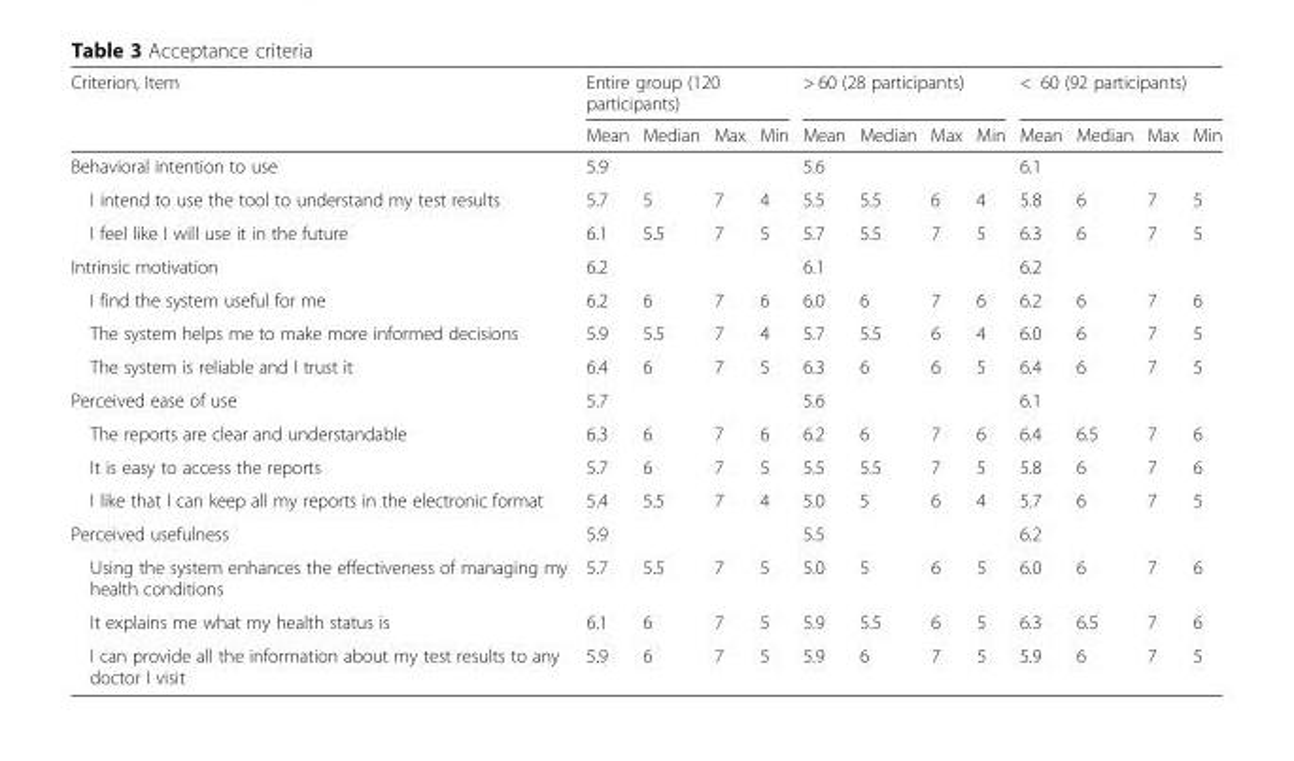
<table><thead><tr><td rowspan="2">Criterion, Item</td><td colspan="4">Entire group (120 participants)</td><td colspan="4">&gt; 60 (28 participants)</td><td colspan="4">&lt; 60 (92 participants)</td></tr><tr><td>Mean</td><td>Median</td><td>Max</td><td>Min</td><td>Mean</td><td>Median</td><td>Max</td><td>Min</td><td>Mean</td><td>Median</td><td>Max</td><td>Min</td></tr></thead><tbody><tr><td>Behavioral intention to use</td><td>5.9</td><td></td><td></td><td></td><td>5.6</td><td></td><td></td><td></td><td>6.1</td><td></td><td></td><td></td></tr><tr><td>I intend to use the tool to understand my test results</td><td>5.7</td><td>5</td><td>7</td><td>4</td><td>5.5</td><td>5.5</td><td>6</td><td>4</td><td>5.8</td><td>6</td><td>7</td><td>5</td></tr><tr><td>I feel like I will use it in the future</td><td>6.1</td><td>5.5</td><td>7</td><td>5</td><td>5.7</td><td>5.5</td><td>7</td><td>5</td><td>6.3</td><td>6</td><td>7</td><td>5</td></tr><tr><td>Intrinsic motivation</td><td>6.2</td><td></td><td></td><td></td><td>6.1</td><td></td><td></td><td></td><td>6.2</td><td></td><td></td><td></td></tr><tr><td>I find the system useful for me</td><td>6.2</td><td>6</td><td>7</td><td>6</td><td>6.0</td><td>6</td><td>7</td><td>6</td><td>6.2</td><td>6</td><td>7</td><td>6</td></tr><tr><td>The system helps me to make more informed decisions</td><td>5.9</td><td>5.5</td><td>7</td><td>4</td><td>5.7</td><td>5.5</td><td>6</td><td>4</td><td>6.0</td><td>6</td><td>7</td><td>5</td></tr><tr><td>The system is reliable and I trust it</td><td>6.4</td><td>6</td><td>7</td><td>5</td><td>6.3</td><td>6</td><td>6</td><td>5</td><td>6.4</td><td>6</td><td>7</td><td>5</td></tr><tr><td>Perceived ease of use</td><td>5.7</td><td></td><td></td><td></td><td>5.6</td><td></td><td></td><td></td><td>6.1</td><td></td><td></td><td></td></tr><tr><td>The reports are clear and understandable</td><td>6.3</td><td>6</td><td>7</td><td>6</td><td>6.2</td><td>6</td><td>7</td><td>6</td><td>6.4</td><td>6.5</td><td>7</td><td>6</td></tr><tr><td>It is easy to access the reports</td><td>5.7</td><td>6</td><td>7</td><td>5</td><td>5.5</td><td>5.5</td><td>7</td><td>5</td><td>5.8</td><td>6</td><td>7</td><td>6</td></tr><tr><td>I like that I can keep all my reports in the electronic format</td><td>5.4</td><td>5.5</td><td>7</td><td>4</td><td>5.0</td><td>5</td><td>6</td><td>4</td><td>5.7</td><td>6</td><td>7</td><td>5</td></tr><tr><td>Perceived usefulness</td><td>5.9</td><td></td><td></td><td></td><td>5.5</td><td></td><td></td><td></td><td>6.2</td><td></td><td></td><td></td></tr><tr><td>Using the system enhances the effectiveness of managing my health conditions</td><td>5.7</td><td>5.5</td><td>7</td><td>5</td><td>5.0</td><td>5</td><td>6</td><td>5</td><td>6.0</td><td>6</td><td>7</td><td>6</td></tr><tr><td>It explains me what my health status is</td><td>6.1</td><td>6</td><td>7</td><td>5</td><td>5.9</td><td>5.5</td><td>6</td><td>5</td><td>6.3</td><td>6.5</td><td>7</td><td>6</td></tr><tr><td>I can provide all the information about my test results to any doctor I visit</td><td>5.9</td><td>6</td><td>7</td><td>5</td><td>5.9</td><td>6</td><td>7</td><td>5</td><td>5.9</td><td>6</td><td>7</td><td>5</td></tr></tbody></table>